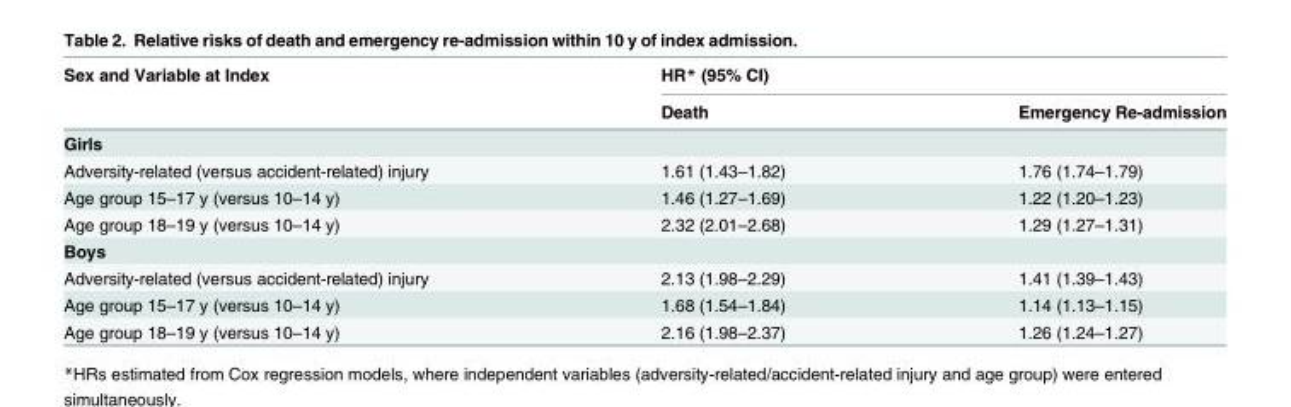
<table><thead><tr><td rowspan="2">Sex and Variable at Index</td><td colspan="2">HR* (95% CI)</td></tr><tr><td>Death</td><td>Emergency Re-admission</td></tr></thead><tbody><tr><td colspan="3">Girls</td></tr><tr><td>Adversity-related (versus accident-related) injury</td><td>1.61 (1.43–1.82)</td><td>1.76 (1.74–1.79)</td></tr><tr><td>Age group 15–17 y (versus 10–14 y)</td><td>1.46 (1.27–1.69)</td><td>1.22 (1.20–1.23)</td></tr><tr><td>Age group 18–19 y (versus 10–14 y)</td><td>2.32 (2.01–2.68)</td><td>1.29 (1.27–1.31)</td></tr><tr><td colspan="3">Boys</td></tr><tr><td>Adversity-related (versus accident-related) injury</td><td>2.13 (1.98–2.29)</td><td>1.41 (1.39–1.43)</td></tr><tr><td>Age group 15–17 y (versus 10–14 y)</td><td>1.68 (1.54–1.84)</td><td>1.14 (1.13–1.15)</td></tr><tr><td>Age group 18–19 y (versus 10–14 y)</td><td>2.16 (1.98–2.37)</td><td>1.26 (1.24–1.27)</td></tr></tbody></table>